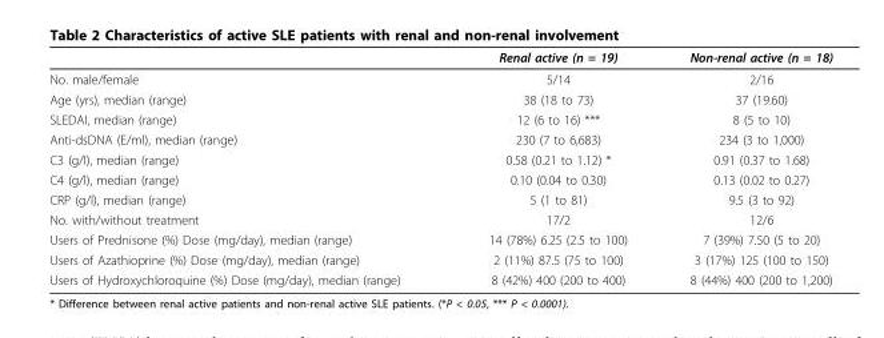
<table><thead><tr><td></td><td>Renal active (n = 19)</td><td>Non-renal active (n = 18)</td></tr></thead><tbody><tr><td>No. male/female</td><td>5/14</td><td>2/16</td></tr><tr><td>Age (yrs), median (range)</td><td>38 (18 to 73)</td><td>37 (19.60)</td></tr><tr><td>SLEDAI, median (range)</td><td>12 (6 to 16) ***</td><td>8 (5 to 10)</td></tr><tr><td>Anti-dsDNA (E/ml), median (range)</td><td>230 (7 to 6,683)</td><td>234 (3 to 1,000)</td></tr><tr><td>C3 (g/l), median (range)</td><td>0.58 (0.21 to 1.12) *</td><td>0.91 (0.37 to 1.68)</td></tr><tr><td>C4 (g/l), median (range)</td><td>0.10 (0.04 to 0.30)</td><td>0.13 (0.02 to 0.27)</td></tr><tr><td>CRP (g/l), median (range)</td><td>5 (1 to 81)</td><td>9.5 (3 to 92)</td></tr><tr><td>No. with/without treatment</td><td>17/2</td><td>12/6</td></tr><tr><td>Users of Prednisone (%) Dose (mg/day), median (range)</td><td>14 (78%) 6.25 (2.5 to 100)</td><td>7 (39%) 7.50 (5 to 20)</td></tr><tr><td>Users of Azathioprine (%) Dose (mg/day), median (range)</td><td>2 (11%) 87.5 (75 to 100)</td><td>3 (17%) 125 (100 to 150)</td></tr><tr><td>Users of Hydroxychloroquine (%) Dose (mg/day), median (range)</td><td>8 (42%) 400 (200 to 400)</td><td>8 (44%) 400 (200 to 1,200)</td></tr></tbody></table>